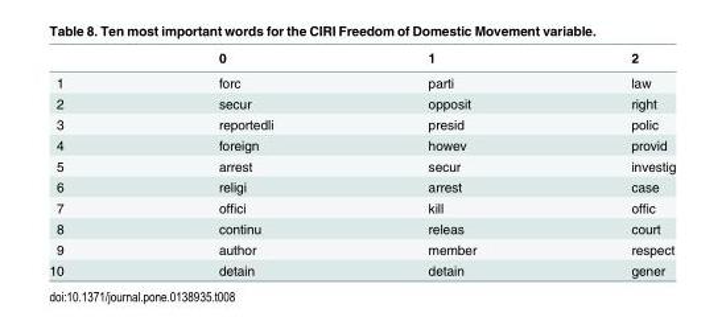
<table><thead><tr><td></td><td>0</td><td>1</td><td>2</td></tr></thead><tbody><tr><td>1</td><td>forc</td><td>parti</td><td>law</td></tr><tr><td>2</td><td>secur</td><td>opposit</td><td>right</td></tr><tr><td>3</td><td>reportedli</td><td>presid</td><td>polic</td></tr><tr><td>4</td><td>foreign</td><td>howev</td><td>provid</td></tr><tr><td>5</td><td>arrest</td><td>secur</td><td>investig</td></tr><tr><td>6</td><td>religi</td><td>arrest</td><td>case</td></tr><tr><td>7</td><td>offici</td><td>kill</td><td>offic</td></tr><tr><td>8</td><td>continu</td><td>releas</td><td>court</td></tr><tr><td>9</td><td>author</td><td>member</td><td>respect</td></tr><tr><td>10</td><td>detain</td><td>detain</td><td>gener</td></tr></tbody></table>